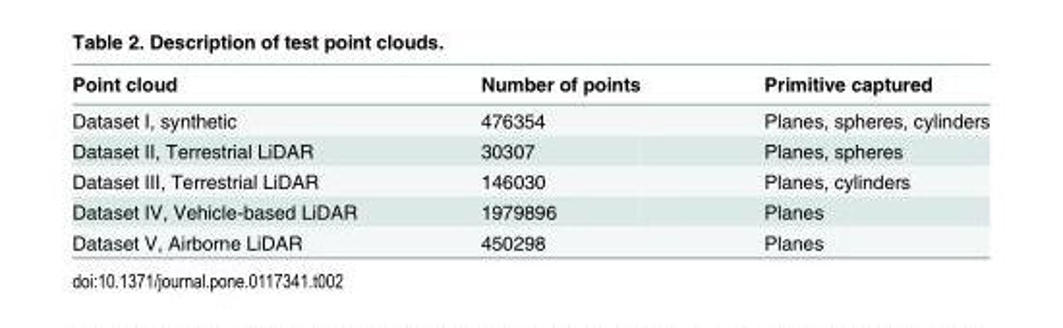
<table><thead><tr><td>Point cloud</td><td>Number of points</td><td>Primitive captured</td></tr></thead><tbody><tr><td>Dataset I, synthetic</td><td>476354</td><td>Planes, spheres, cylinders</td></tr><tr><td>Dataset II, Terrestrial LiDAR</td><td>30307</td><td>Planes, spheres</td></tr><tr><td>Dataset III, Terrestrial LiDAR</td><td>146030</td><td>Planes, cylinders</td></tr><tr><td>Dataset IV, Vehicle-based LiDAR</td><td>1979896</td><td>Planes</td></tr><tr><td>Dataset V, Airborne LiDAR</td><td>450298</td><td>Planes</td></tr></tbody></table>